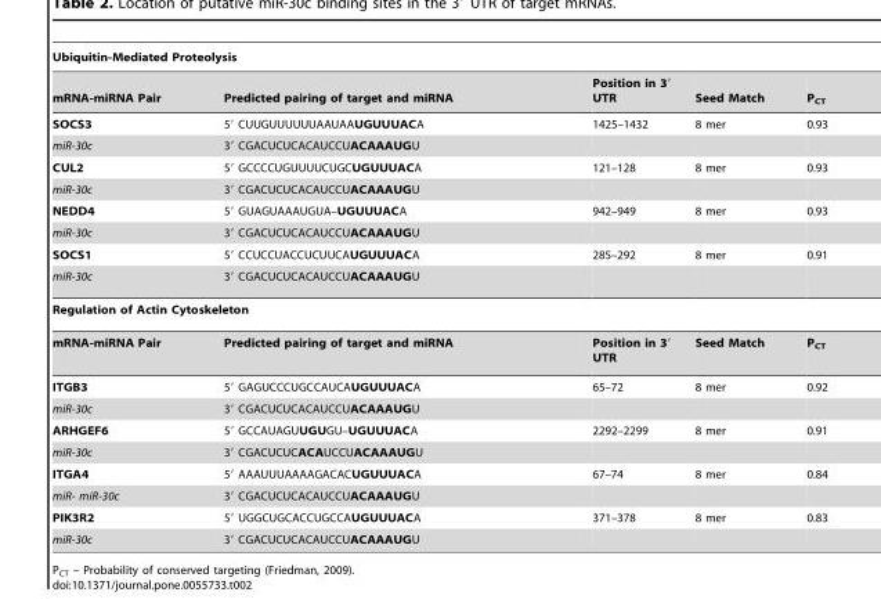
<table><thead><tr><td colspan="5">Ubiquitin-Mediated Proteolysis</td></tr><tr><td>mRNA-miRNA Pair</td><td>Predicted pairing of target and miRNA</td><td>Position in 3′ UTR</td><td>Seed Match</td><td>P<sub>CT</sub></td></tr></thead><tbody><tr><td>SOCS3</td><td>5′ CUUGUUUUUUAAUAAUGUUUACA</td><td>1425–1432</td><td>8 mer</td><td>0.93</td></tr><tr><td>miR-30c</td><td>3′ CGACUCUCACAUCCUACAAAUGU</td><td></td><td></td><td></td></tr><tr><td>CUL2</td><td>5′ GCCCCUGUUUUCUGCUGUUUACA</td><td>121–128</td><td>8 mer</td><td>0.93</td></tr><tr><td>miR-30c</td><td>3′ CGACUCUCACAUCCUACAAAUGU</td><td></td><td></td><td></td></tr><tr><td>NEDD4</td><td>5′ GUAGUAAAUGUA–UGUUUACA</td><td>942–949</td><td>8 mer</td><td>0.93</td></tr><tr><td>miR-30c</td><td>3′ CGACUCUCACAUCCUACAAAUGU</td><td></td><td></td><td></td></tr><tr><td>SOCS1</td><td>5′ CCUCCUACCUCUUCAUGUUUACA</td><td>285–292</td><td>8 mer</td><td>0.91</td></tr><tr><td>miR-30c</td><td>3′ CGACUCUCACAUCCUACAAAUGU</td><td></td><td></td><td></td></tr><tr><td colspan="5">Regulation of Actin Cytoskeleton</td></tr><tr><td>mRNA-miRNA Pair</td><td>Predicted pairing of target and miRNA</td><td>Position in 3′ UTR</td><td>Seed Match</td><td>P<sub>CT</sub></td></tr><tr><td>ITGB3</td><td>5′ GAGUCCCUGCCAUCAUGUUUACA</td><td>65–72</td><td>8 mer</td><td>0.92</td></tr><tr><td>miR-30c</td><td>3′ CGACUCUCACAUCCUACAAAUGU</td><td></td><td></td><td></td></tr><tr><td>ARHGEF6</td><td>5′ GCCAUAGUUGUGU–UGUUUACA</td><td>2292–2299</td><td>8 mer</td><td>0.91</td></tr><tr><td>miR-30c</td><td>3′ CGACUCUCACAUCCUACAAAUGU</td><td></td><td></td><td></td></tr><tr><td>ITGA4</td><td>5′ AAAUUUAAAAGACACUGUUUACA</td><td>67–74</td><td>8 mer</td><td>0.84</td></tr><tr><td>miR- miR-30c</td><td>3′ CGACUCUCACAUCCUACAAAUGU</td><td></td><td></td><td></td></tr><tr><td>PIK3R2</td><td>5′ UGGCUGCACCUGCCAUGUUUACA</td><td>371–378</td><td>8 mer</td><td>0.83</td></tr><tr><td>miR-30c</td><td>3′ CGACUCUCACAUCCUACAAAUGU</td><td></td><td></td><td></td></tr></tbody></table>